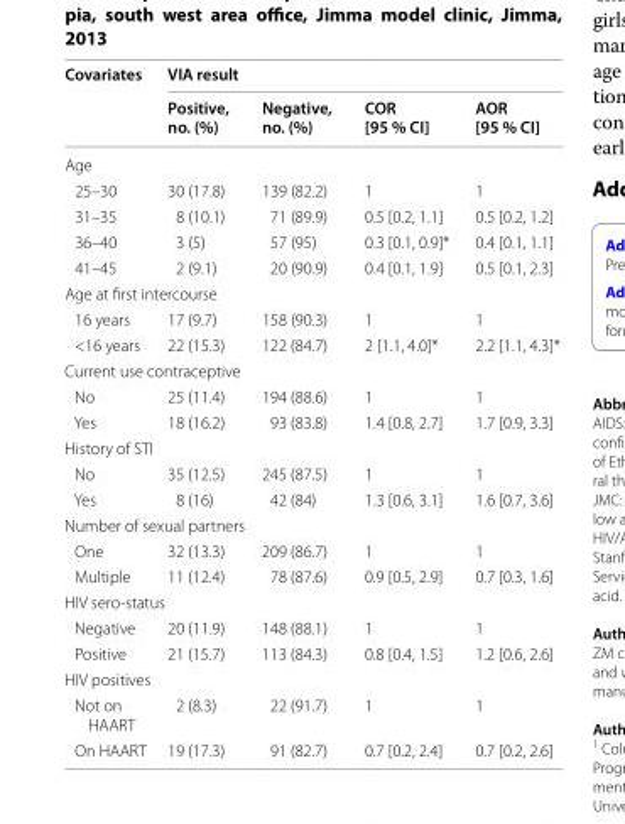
<table><thead><tr><td rowspan="2">Covariates</td><td colspan="4">VIA result</td></tr><tr><td>Positive, no. (%)</td><td>Negative, no. (%)</td><td>COR [95 % CI]</td><td>AOR [95 % CI]</td></tr></thead><tbody><tr><td colspan="5">Age</td></tr><tr><td>25–30</td><td>30 (17.8)</td><td>139 (82.2)</td><td>1</td><td>1</td></tr><tr><td>31–35</td><td>8 (10.1)</td><td>71 (89.9)</td><td>0.5 [0.2, 1.1]</td><td>0.5 [0.2, 1.2]</td></tr><tr><td>36–40</td><td>3 (5)</td><td>57 (95)</td><td>0.3 [0.1, 0.9]*</td><td>0.4 [0.1, 1.1]</td></tr><tr><td>41–45</td><td>2 (9.1)</td><td>20 (90.9)</td><td>0.4 [0.1, 1.9]</td><td>0.5 [0.1, 2.3]</td></tr><tr><td colspan="5">Age at first intercourse</td></tr><tr><td>16 years</td><td>17 (9.7)</td><td>158 (90.3)</td><td>1</td><td>1</td></tr><tr><td>&lt;16 years</td><td>22 (15.3)</td><td>122 (84.7)</td><td>2 [1.1, 4.0]*</td><td>2.2 [1.1, 4.3]*</td></tr><tr><td colspan="5">Current use contraceptive</td></tr><tr><td>No</td><td>25 (11.4)</td><td>194 (88.6)</td><td>1</td><td>1</td></tr><tr><td>Yes</td><td>18 (16.2)</td><td>93 (83.8)</td><td>1.4 [0.8, 2.7]</td><td>1.7 [0.9, 3.3]</td></tr><tr><td colspan="5">History of STI</td></tr><tr><td>No</td><td>35 (12.5)</td><td>245 (87.5)</td><td>1</td><td>1</td></tr><tr><td>Yes</td><td>8 (16)</td><td>42 (84)</td><td>1.3 [0.6, 3.1]</td><td>1.6 [0.7, 3.6]</td></tr><tr><td colspan="5">Number of sexual partners</td></tr><tr><td>One</td><td>32 (13.3)</td><td>209 (86.7)</td><td>1</td><td>1</td></tr><tr><td>Multiple</td><td>11 (12.4)</td><td>78 (87.6)</td><td>0.9 [0.5, 2.9]</td><td>0.7 [0.3, 1.6]</td></tr><tr><td colspan="5">HIV sero-status</td></tr><tr><td>Negative</td><td>20 (11.9)</td><td>148 (88.1)</td><td>1</td><td>1</td></tr><tr><td>Positive</td><td>21 (15.7)</td><td>113 (84.3)</td><td>0.8 [0.4, 1.5]</td><td>1.2 [0.6, 2.6]</td></tr><tr><td colspan="5">HIV positives</td></tr><tr><td>Not on HAART</td><td>2 (8.3)</td><td>22 (91.7)</td><td>1</td><td>1</td></tr><tr><td>On HAART</td><td>19 (17.3)</td><td>91 (82.7)</td><td>0.7 [0.2, 2.4]</td><td>0.7 [0.2, 2.6]</td></tr></tbody></table>